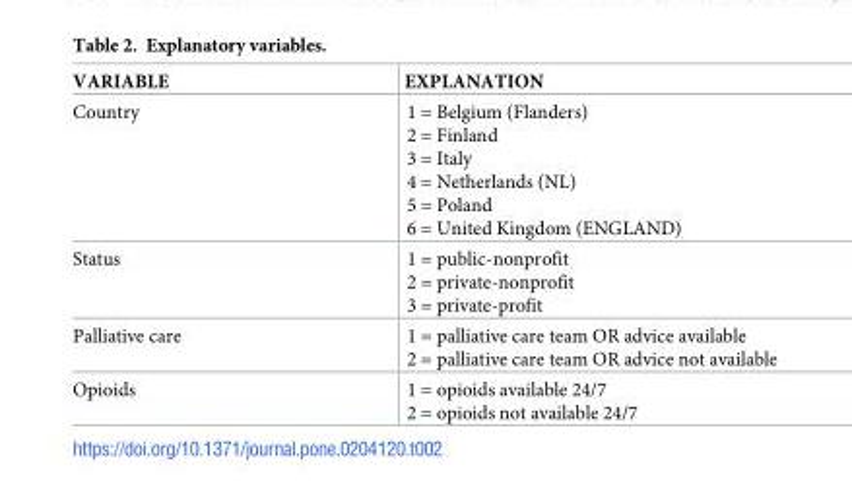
<table><thead><tr><td>VARIABLE</td><td>EXPLANATION</td></tr></thead><tbody><tr><td>Country</td><td>1 = Belgium (Flanders) 2 = Finland 3 = Italy 4 = Netherlands (NL) 5 = Poland 6 = United Kingdom (ENGLAND)</td></tr><tr><td>Status</td><td>1 = public-nonprofit 2 = private-nonprofit 3 = private-profit</td></tr><tr><td>Palliative care</td><td>1 = palliative care team OR advice available 2 = palliative care team OR advice not available</td></tr><tr><td>Opioids</td><td>1 = opioids available 24/7 2 = opioids not available 24/7</td></tr></tbody></table>